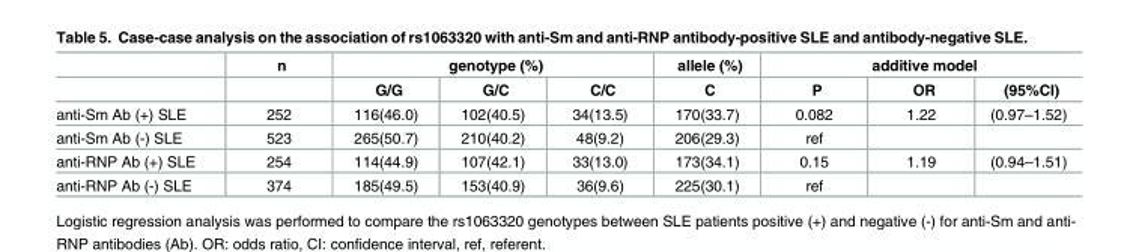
<table><thead><tr><td rowspan="2"></td><td rowspan="2">n</td><td colspan="3">genotype (%)</td><td rowspan="2">allele (%) C</td><td colspan="3">additive model</td></tr><tr><td>G/G</td><td>G/C</td><td>C/C</td><td>P</td><td>OR</td><td>(95%CI)</td></tr></thead><tbody><tr><td>anti-Sm Ab (+) SLE</td><td>252</td><td>116(46.0)</td><td>102(40.5)</td><td>34(13.5)</td><td>170(33.7)</td><td>0.082</td><td>1.22</td><td>(0.97–1.52)</td></tr><tr><td>anti-Sm Ab (-) SLE</td><td>523</td><td>265(50.7)</td><td>210(40.2)</td><td>48(9.2)</td><td>206(29.3)</td><td>ref</td><td></td><td></td></tr><tr><td>anti-RNP Ab (+) SLE</td><td>254</td><td>114(44.9)</td><td>107(42.1)</td><td>33(13.0)</td><td>173(34.1)</td><td>0.15</td><td>1.19</td><td>(0.94–1.51)</td></tr><tr><td>anti-RNP Ab (-) SLE</td><td>374</td><td>185(49.5)</td><td>153(40.9)</td><td>36(9.6)</td><td>225(30.1)</td><td>ref</td><td></td><td></td></tr></tbody></table>